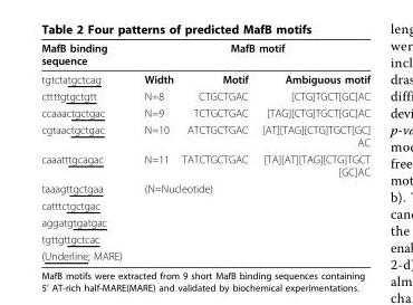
<table><thead><tr><td rowspan="2">MafB binding sequence tgtctatgctcag</td><td colspan="3">MafB motif</td></tr><tr><td>Width</td><td>Motif</td><td>Ambiguous motif</td></tr></thead><tbody><tr><td>cttttgtgctgtt</td><td>N=8</td><td>CTGCTGAC</td><td>[CTG]TGCT[GC]AC</td></tr><tr><td>ccaaactgctgac</td><td>N=9</td><td>TCTGCTGAC</td><td>[TAG][CTG]TGCT[GC]AC</td></tr><tr><td>cgtaactgctgac</td><td>N=10</td><td>ATCTGCTGAC</td><td>[AT][TAG][CTG]TGCT[GC] AC</td></tr><tr><td>caaatttgcagac</td><td>N=11</td><td>TATCTGCTGAC</td><td>[TA][AT][TAG][CTG]TGCT [GC]AC</td></tr><tr><td>taaagttgctgaa</td><td colspan="3">(N=Nucleotide)</td></tr><tr><td colspan="4">catttctgctgac</td></tr><tr><td colspan="4">aggatgtgatgac</td></tr><tr><td colspan="4">tgttgttgctcac</td></tr><tr><td>(Underline; MARE)</td><td colspan="3"></td></tr></tbody></table>